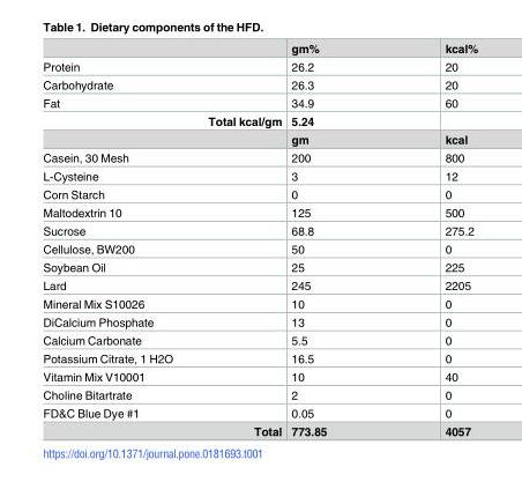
<table><thead><tr><td></td><td>gm%</td><td>kcal%</td></tr></thead><tbody><tr><td>Protein</td><td>26.2</td><td>20</td></tr><tr><td>Carbohydrate</td><td>26.3</td><td>20</td></tr><tr><td>Fat</td><td>34.9</td><td>60</td></tr><tr><td rowspan="2">Total kcal/gm</td><td>5.24</td><td></td></tr><tr><td>gm</td><td>kcal</td></tr><tr><td>Casein, 30 Mesh</td><td>200</td><td>800</td></tr><tr><td>L-Cysteine</td><td>3</td><td>12</td></tr><tr><td>Corn Starch</td><td>0</td><td>0</td></tr><tr><td>Maltodextrin 10</td><td>125</td><td>500</td></tr><tr><td>Sucrose</td><td>68.8</td><td>275.2</td></tr><tr><td>Cellulose, BW200</td><td>50</td><td>0</td></tr><tr><td>Soybean Oil</td><td>25</td><td>225</td></tr><tr><td>Lard</td><td>245</td><td>2205</td></tr><tr><td>Mineral Mix S10026</td><td>10</td><td>0</td></tr><tr><td>DiCalcium Phosphate</td><td>13</td><td>0</td></tr><tr><td>Calcium Carbonate</td><td>5.5</td><td>0</td></tr><tr><td>Potassium Citrate, 1 H2O</td><td>16.5</td><td>0</td></tr><tr><td>Vitamin Mix V10001</td><td>10</td><td>40</td></tr><tr><td>Choline Bitartrate</td><td>2</td><td>0</td></tr><tr><td>FD&amp;C Blue Dye #1</td><td>0.05</td><td>0</td></tr><tr><td>Total</td><td>773.85</td><td>4057</td></tr></tbody></table>